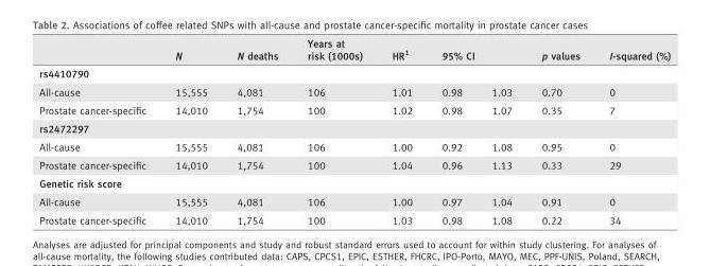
<table><thead><tr><td rowspan="2">rs4410790</td><td rowspan="2">N</td><td rowspan="2">N deaths</td><td rowspan="2">Years at risk (1000s)</td><td rowspan="2">HR1</td><td colspan="2">95% CI</td><td rowspan="2">p values</td><td rowspan="2">I-squared (%)</td></tr><tr><td></td><td></td></tr></thead><tbody><tr><td>All-cause</td><td>15,555</td><td>4,081</td><td>106</td><td>1.01</td><td>0.98</td><td>1.03</td><td>0.70</td><td>0</td></tr><tr><td>Prostate cancer-specific</td><td>14,010</td><td>1,754</td><td>100</td><td>1.02</td><td>0.98</td><td>1.07</td><td>0.35</td><td>7</td></tr><tr><td colspan="9">rs2472297</td></tr><tr><td>All-cause</td><td>15,555</td><td>4,081</td><td>106</td><td>1.00</td><td>0.92</td><td>1.08</td><td>0.95</td><td>0</td></tr><tr><td>Prostate cancer-specific</td><td>14,010</td><td>1,754</td><td>100</td><td>1.04</td><td>0.96</td><td>1.13</td><td>0.33</td><td>29</td></tr><tr><td colspan="9">Genetic risk score</td></tr><tr><td>All-cause</td><td>15,555</td><td>4,081</td><td>106</td><td>1.00</td><td>0.97</td><td>1.04</td><td>0.91</td><td>0</td></tr><tr><td>Prostate cancer-specific</td><td>14,010</td><td>1,754</td><td>100</td><td>1.03</td><td>0.98</td><td>1.08</td><td>0.22</td><td>34</td></tr></tbody></table>